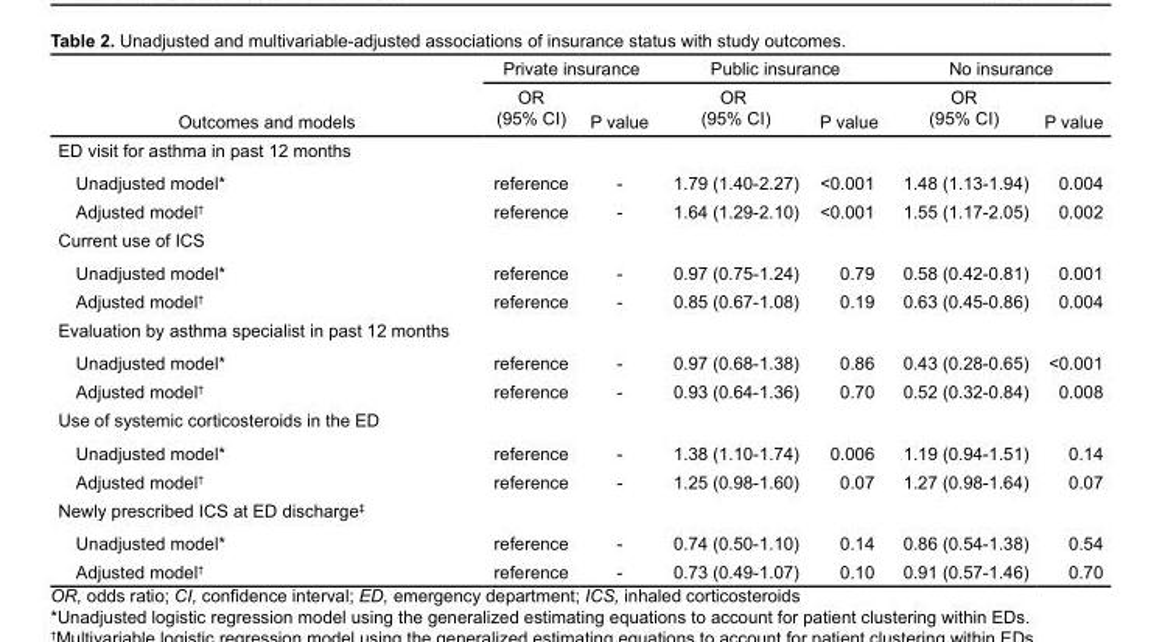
<table><thead><tr><td rowspan="2">Outcomes and models</td><td colspan="2">Private insurance</td><td colspan="2">Public insurance</td><td colspan="2">No insurance</td></tr><tr><td>OR (95% CI)</td><td>P value</td><td>OR (95% CI)</td><td>P value</td><td>OR (95% CI)</td><td>P value</td></tr></thead><tbody><tr><td colspan="7">ED visit for asthma in past 12 months</td></tr><tr><td>Unadjusted model*</td><td>reference</td><td>-</td><td>1.79 (1.40-2.27)</td><td>&lt;0.001</td><td>1.48 (1.13-1.94)</td><td>0.004</td></tr><tr><td>Adjusted model†</td><td>reference</td><td>-</td><td>1.64 (1.29-2.10)</td><td>&lt;0.001</td><td>1.55 (1.17-2.05)</td><td>0.002</td></tr><tr><td colspan="7">Current use of ICS</td></tr><tr><td>Unadjusted model*</td><td>reference</td><td>-</td><td>0.97 (0.75-1.24)</td><td>0.79</td><td>0.58 (0.42-0.81)</td><td>0.001</td></tr><tr><td>Adjusted model†</td><td>reference</td><td>-</td><td>0.85 (0.67-1.08)</td><td>0.19</td><td>0.63 (0.45-0.86)</td><td>0.004</td></tr><tr><td colspan="7">Evaluation by asthma specialist in past 12 months</td></tr><tr><td>Unadjusted model*</td><td>reference</td><td>-</td><td>0.97 (0.68-1.38)</td><td>0.86</td><td>0.43 (0.28-0.65)</td><td>&lt;0.001</td></tr><tr><td>Adjusted model†</td><td>reference</td><td>-</td><td>0.93 (0.64-1.36)</td><td>0.70</td><td>0.52 (0.32-0.84)</td><td>0.008</td></tr><tr><td colspan="7">Use of systemic corticosteroids in the ED</td></tr><tr><td>Unadjusted model*</td><td>reference</td><td>-</td><td>1.38 (1.10-1.74)</td><td>0.006</td><td>1.19 (0.94-1.51)</td><td>0.14</td></tr><tr><td>Adjusted model†</td><td>reference</td><td>-</td><td>1.25 (0.98-1.60)</td><td>0.07</td><td>1.27 (0.98-1.64)</td><td>0.07</td></tr><tr><td colspan="7">Newly prescribed ICS at ED discharge‡</td></tr><tr><td>Unadjusted model*</td><td>reference</td><td>-</td><td>0.74 (0.50-1.10)</td><td>0.14</td><td>0.86 (0.54-1.38)</td><td>0.54</td></tr><tr><td>Adjusted model†</td><td>reference</td><td>-</td><td>0.73 (0.49-1.07)</td><td>0.10</td><td>0.91 (0.57-1.46)</td><td>0.70</td></tr></tbody></table>